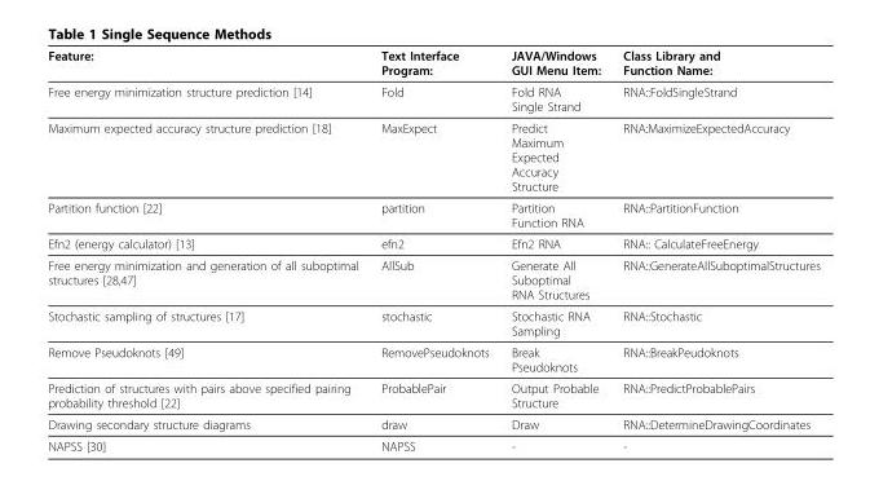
<table><thead><tr><td>Feature:</td><td>Text Interface Program:</td><td>JAVA/Windows GUI Menu Item:</td><td>Class Library and Function Name:</td></tr></thead><tbody><tr><td>Free energy minimization structure prediction [14]</td><td>Fold</td><td>Fold RNA Single Strand</td><td>RNA::FoldSingleStrand</td></tr><tr><td>Maximum expected accuracy structure prediction [18]</td><td>MaxExpect</td><td>Predict Maximum Expected Accuracy Structure</td><td>RNA:MaximizeExpectedAccuracy</td></tr><tr><td>Partition function [22]</td><td>partition</td><td>Partition Function RNA</td><td>RNA::PartitionFunction</td></tr><tr><td>Efn2 (energy calculator) [13]</td><td>efn2</td><td>Efn2 RNA</td><td>RNA:: CalculateFreeEnergy</td></tr><tr><td>Free energy minimization and generation of all suboptimal structures [28,47]</td><td>AllSub</td><td>Generate All Suboptimal RNA Structures</td><td>RNA::GenerateAllSuboptimalStructures</td></tr><tr><td>Stochastic sampling of structures [17]</td><td>stochastic</td><td>Stochastic RNA Sampling</td><td>RNA::Stochastic</td></tr><tr><td>Remove Pseudoknots [49]</td><td>RemovePseudoknots</td><td>Break Pseudoknots</td><td>RNA::BreakPeudoknots</td></tr><tr><td>Prediction of structures with pairs above specified pairing probability threshold [22]</td><td>ProbablePair</td><td>Output Probable Structure</td><td>RNA::PredictProbablePairs</td></tr><tr><td>Drawing secondary structure diagrams</td><td>draw</td><td>Draw</td><td>RNA::DetermineDrawingCoordinates</td></tr><tr><td>NAPSS [30]</td><td>NAPSS</td><td>-</td><td>-</td></tr></tbody></table>